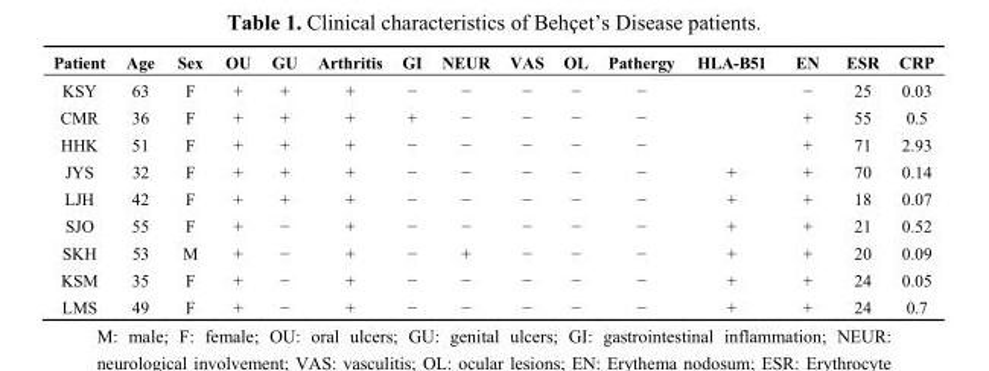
<table><thead><tr><td>Patient</td><td>Age</td><td>Sex</td><td>OU</td><td>GU</td><td>Arthritis</td><td>GI</td><td>NEUR</td><td>VAS</td><td>OL</td><td>Pathergy</td><td>HLA-B51</td><td>EN</td><td>ESR</td><td>CRP</td></tr></thead><tbody><tr><td>KSY</td><td>63</td><td>F</td><td>+</td><td>+</td><td>+</td><td>−</td><td>−</td><td>−</td><td>−</td><td>−</td><td></td><td>−</td><td>25</td><td>0.03</td></tr><tr><td>CMR</td><td>36</td><td>F</td><td>+</td><td>+</td><td>+</td><td>+</td><td>−</td><td>−</td><td>−</td><td>−</td><td></td><td>+</td><td>55</td><td>0.5</td></tr><tr><td>HHK</td><td>51</td><td>F</td><td>+</td><td>+</td><td>+</td><td>−</td><td>−</td><td>−</td><td>−</td><td>−</td><td></td><td>+</td><td>71</td><td>2.93</td></tr><tr><td>JYS</td><td>32</td><td>F</td><td>+</td><td>+</td><td>+</td><td>−</td><td>−</td><td>−</td><td>−</td><td>−</td><td>+</td><td>+</td><td>70</td><td>0.14</td></tr><tr><td>LJH</td><td>42</td><td>F</td><td>+</td><td>+</td><td>+</td><td>−</td><td>−</td><td>−</td><td>−</td><td>−</td><td>+</td><td>+</td><td>18</td><td>0.07</td></tr><tr><td>SJO</td><td>55</td><td>F</td><td>+</td><td>−</td><td>+</td><td>−</td><td>−</td><td>−</td><td>−</td><td>−</td><td>+</td><td>+</td><td>21</td><td>0.52</td></tr><tr><td>SKH</td><td>53</td><td>M</td><td>+</td><td>−</td><td>+</td><td>−</td><td>+</td><td>−</td><td>−</td><td>−</td><td>+</td><td>+</td><td>20</td><td>0.09</td></tr><tr><td>KSM</td><td>35</td><td>F</td><td>+</td><td>−</td><td>+</td><td>−</td><td>−</td><td>−</td><td>−</td><td>−</td><td>+</td><td>+</td><td>24</td><td>0.05</td></tr><tr><td>LMS</td><td>49</td><td>F</td><td>+</td><td>−</td><td>+</td><td>−</td><td>−</td><td>−</td><td>−</td><td>−</td><td>+</td><td>+</td><td>24</td><td>0.7</td></tr></tbody></table>